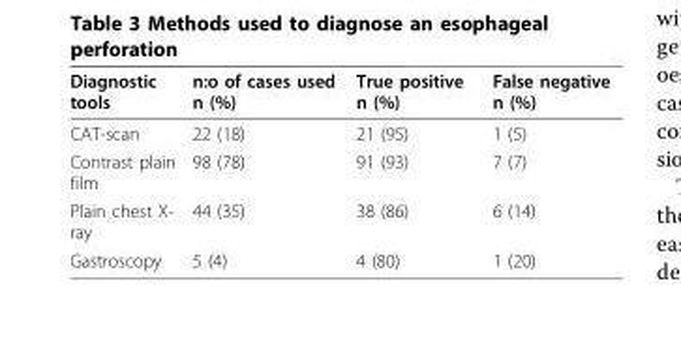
<table><thead><tr><td>Diagnostic tools</td><td>n:o of cases used n (%)</td><td>True positive n (%)</td><td>False negative n (%)</td></tr></thead><tbody><tr><td>CAT-scan</td><td>22 (18)</td><td>21 (95)</td><td>1 (5)</td></tr><tr><td>Contrast plain film</td><td>98 (78)</td><td>91 (93)</td><td>7 (7)</td></tr><tr><td>Plain chest X- ray</td><td>44 (35)</td><td>38 (86)</td><td>6 (14)</td></tr><tr><td>Gastroscopy</td><td>5 (4)</td><td>4 (80)</td><td>1 (20)</td></tr></tbody></table>